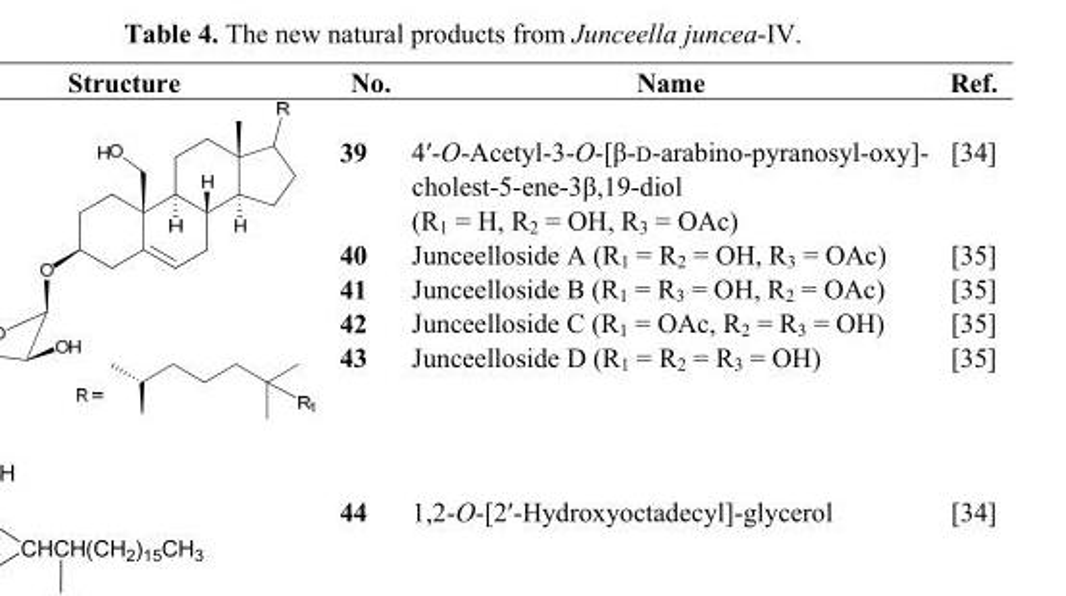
<table><thead><tr><td>Structure</td><td>No.</td><td>Name</td><td>Ref.</td></tr></thead><tbody><tr><td rowspan="5"></td><td>39</td><td>4′-O-Acetyl-3-O-[β-D-arabino-pyranosyl-oxy]- cholest-5-ene-3β,19-diol (R<sub>1</sub> = H, R<sub>2</sub> = OH, R<sub>3</sub> = OAc)</td><td>[34]</td></tr><tr><td>40</td><td>Junceelloside A (R<sub>1</sub> = R<sub>2</sub> = OH, R<sub>3</sub> = OAc)</td><td>[35]</td></tr><tr><td>41</td><td>Junceelloside B (R<sub>1</sub> = R<sub>3</sub> = OH, R<sub>2</sub> = OAc)</td><td>[35]</td></tr><tr><td>42</td><td>Junceelloside C (R<sub>1</sub> = OAc, R<sub>2</sub> = R<sub>3</sub> = OH)</td><td>[35]</td></tr><tr><td>43</td><td>Junceelloside D (R<sub>1</sub> = R<sub>2</sub> = R<sub>3</sub> = OH)</td><td>[35]</td></tr><tr><td></td><td>44</td><td>1,2-O-[2′-Hydroxyoctadecyl]-glycerol</td><td>[34]</td></tr></tbody></table>